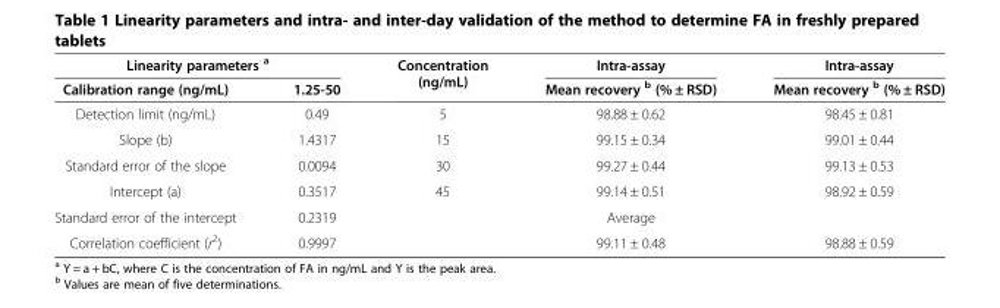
<table><thead><tr><td colspan="2">Linearity parameters <sup>a</sup></td><td rowspan="2">Concentration (ng/mL)</td><td rowspan="2">Intra-assay Mean recovery <sup>b</sup> (% ± RSD)</td><td rowspan="2">Intra-assay Mean recovery <sup>b</sup> (% ± RSD)</td></tr><tr><td>Calibration range (ng/mL)</td><td>1.25-50</td></tr></thead><tbody><tr><td>Detection limit (ng/mL)</td><td>0.49</td><td>5</td><td>98.88 ± 0.62</td><td>98.45 ± 0.81</td></tr><tr><td>Slope (b)</td><td>1.4317</td><td>15</td><td>99.15 ± 0.34</td><td>99.01 ± 0.44</td></tr><tr><td>Standard error of the slope</td><td>0.0094</td><td>30</td><td>99.27 ± 0.44</td><td>99.13 ± 0.53</td></tr><tr><td>Intercept (a)</td><td>0.3517</td><td>45</td><td>99.14 ± 0.51</td><td>98.92 ± 0.59</td></tr><tr><td>Standard error of the intercept</td><td>0.2319</td><td></td><td>Average</td><td></td></tr><tr><td>Correlation coefficient (r<sup>2</sup>)</td><td>0.9997</td><td></td><td>99.11 ± 0.48</td><td>98.88 ± 0.59</td></tr></tbody></table>